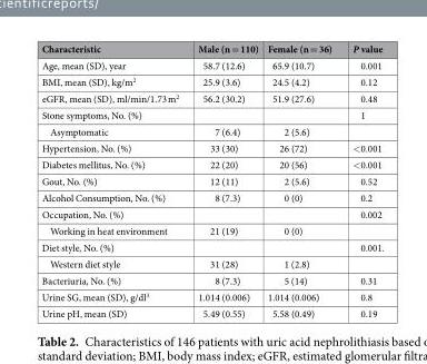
<table><thead><tr><td>Characteristic</td><td>Male (n = 110)</td><td>Female (n = 36)</td><td>P value</td></tr></thead><tbody><tr><td>Age, mean (SD), year</td><td>58.7 (12.6)</td><td>65.9 (10.7)</td><td>0.001</td></tr><tr><td>BMI, mean (SD), kg/m<sup>2</sup></td><td>25.9 (3.6)</td><td>24.5 (4.2)</td><td>0.12</td></tr><tr><td>eGFR, mean (SD), ml/min/1.73 m<sup>2</sup></td><td>56.2 (30.2)</td><td>51.9 (27.6)</td><td>0.48</td></tr><tr><td>Stone symptoms, No. (%)</td><td></td><td></td><td>1</td></tr><tr><td>Asymptomatic</td><td>7 (6.4)</td><td>2 (5.6)</td><td></td></tr><tr><td>Hypertension, No. (%)</td><td>33 (30)</td><td>26 (72)</td><td>&lt;0.001</td></tr><tr><td>Diabetes mellitus, No. (%)</td><td>22 (20)</td><td>20 (56)</td><td>&lt;0.001</td></tr><tr><td>Gout, No. (%)</td><td>12 (11)</td><td>2 (5.6)</td><td>0.52</td></tr><tr><td>Alcohol Consumption, No. (%)</td><td>8 (7.3)</td><td>0 (0)</td><td>0.2</td></tr><tr><td>Occupation, No. (%)</td><td></td><td></td><td>0.002</td></tr><tr><td>Working in heat environment</td><td>21 (19)</td><td>0 (0)</td><td></td></tr><tr><td>Diet style, No. (%)</td><td></td><td></td><td>0.001.</td></tr><tr><td>Western diet style</td><td>31 (28)</td><td>1 (2.8)</td><td></td></tr><tr><td>Bacteriuria, No. (%)</td><td>8 (7.3)</td><td>5 (14)</td><td>0.31</td></tr><tr><td>Urine SG, mean (SD), g/dl<sup>3</sup></td><td>1.014 (0.006)</td><td>1.014 (0.006)</td><td>0.8</td></tr><tr><td>Urine pH, mean (SD)</td><td>5.49 (0.55)</td><td>5.58 (0.49)</td><td>0.19</td></tr></tbody></table>